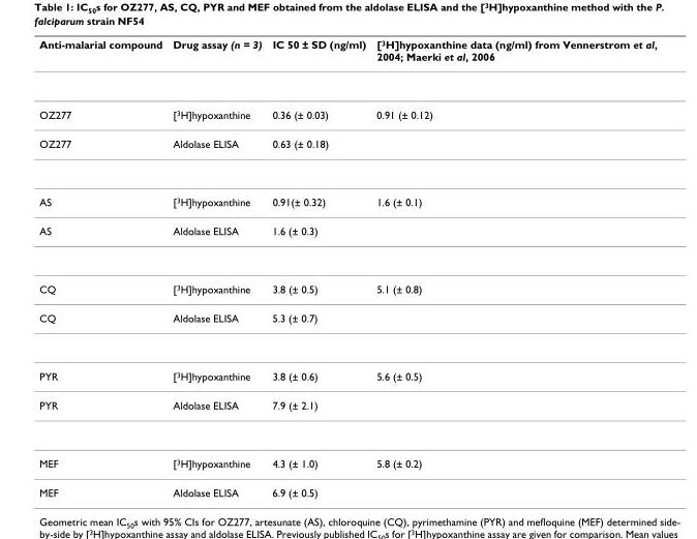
<table><thead><tr><td>Anti-malarial compound</td><td>Drug assay (n = 3)</td><td>IC 50 ± SD (ng/ml)</td><td>[3H]hypoxanthine data (ng/ml) from Vennerstrom et al, 2004; Maerki et al, 2006</td></tr></thead><tbody><tr><td>OZ277</td><td>[3H]hypoxanthine</td><td>0.36 (± 0.03)</td><td>0.91 (± 0.12)</td></tr><tr><td>OZ277</td><td>Aldolase ELISA</td><td>0.63 (± 0.18)</td><td></td></tr><tr><td>AS</td><td>[3H]hypoxanthine</td><td>0.91(± 0.32)</td><td>1.6 (± 0.1)</td></tr><tr><td>AS</td><td>Aldolase ELISA</td><td>1.6 (± 0.3)</td><td></td></tr><tr><td>CQ</td><td>[3H]hypoxanthine</td><td>3.8 (± 0.5)</td><td>5.1 (± 0.8)</td></tr><tr><td>CQ</td><td>Aldolase ELISA</td><td>5.3 (± 0.7)</td><td></td></tr><tr><td>PYR</td><td>[3H]hypoxanthine</td><td>3.8 (± 0.6)</td><td>5.6 (± 0.5)</td></tr><tr><td>PYR</td><td>Aldolase ELISA</td><td>7.9 (± 2.1)</td><td></td></tr><tr><td>MEF</td><td>[3H]hypoxanthine</td><td>4.3 (± 1.0)</td><td>5.8 (± 0.2)</td></tr><tr><td>MEF</td><td>Aldolase ELISA</td><td>6.9 (± 0.5)</td><td></td></tr></tbody></table>